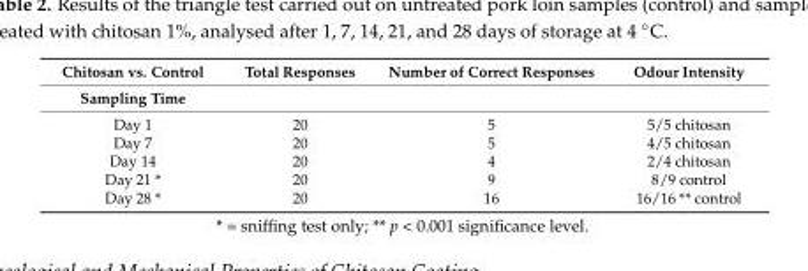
<table><thead><tr><td rowspan="2">Chitosan vs. Control Sampling Time</td><td rowspan="2">Total Responses</td><td rowspan="2">Number of Correct Responses</td><td rowspan="2">Odour Intensity</td></tr><tr></tr></thead><tbody><tr><td>Day 1</td><td>20</td><td>5</td><td>5/5 chitosan</td></tr><tr><td>Day 7</td><td>20</td><td>5</td><td>4/5 chitosan</td></tr><tr><td>Day 14</td><td>20</td><td>4</td><td>2/4 chitosan</td></tr><tr><td>Day 21 *</td><td>20</td><td>9</td><td>8/9 control</td></tr><tr><td>Day 28 *</td><td>20</td><td>16</td><td>16/16 ** control</td></tr></tbody></table>